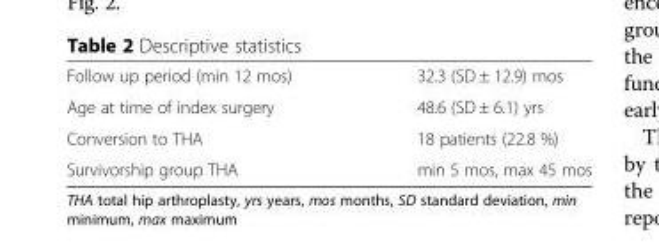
<table><tbody><tr><td>Follow up period (min 12 mos)</td><td>32.3 (SD ± 12.9) mos</td></tr><tr><td>Age at time of index surgery</td><td>48.6 (SD ± 6.1) yrs</td></tr><tr><td>Conversion to THA</td><td>18 patients (22.8 %)</td></tr><tr><td>Survivorship group THA</td><td>min 5 mos, max 45 mos</td></tr></tbody></table>